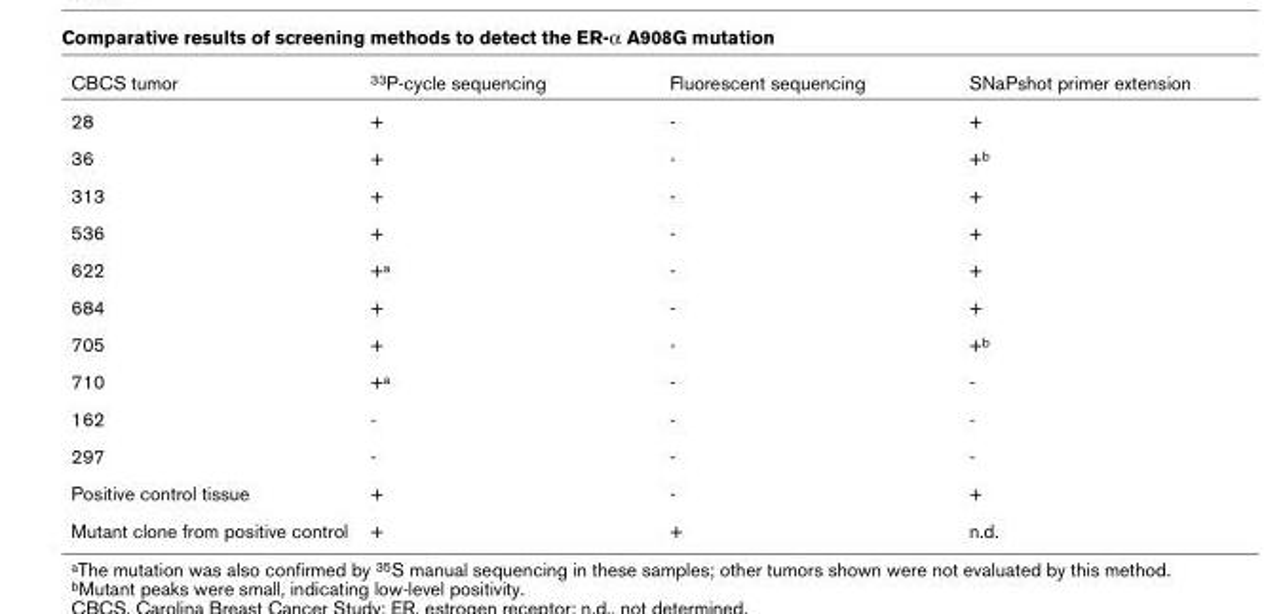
<table><thead><tr><td>CBCS tumor</td><td>33P-cycle sequencing</td><td>Fluorescent sequencing</td><td>SNaPshot primer extension</td></tr></thead><tbody><tr><td>28</td><td>+</td><td>-</td><td>+</td></tr><tr><td>36</td><td>+</td><td>-</td><td>+b</td></tr><tr><td>313</td><td>+</td><td>-</td><td>+</td></tr><tr><td>536</td><td>+</td><td>-</td><td>+</td></tr><tr><td>622</td><td>+a</td><td>-</td><td>+</td></tr><tr><td>684</td><td>+</td><td>-</td><td>+</td></tr><tr><td>705</td><td>+</td><td>-</td><td>+b</td></tr><tr><td>710</td><td>+a</td><td>-</td><td>-</td></tr><tr><td>162</td><td>-</td><td>-</td><td>-</td></tr><tr><td>297</td><td>-</td><td>-</td><td>-</td></tr><tr><td>Positive control tissue</td><td>+</td><td>-</td><td>+</td></tr><tr><td>Mutant clone from positive control</td><td>+</td><td>+</td><td>n.d.</td></tr></tbody></table>